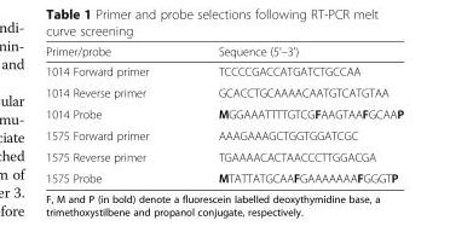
<table><thead><tr><td>Primer/probe</td><td>Sequence (5&#x27;–3&#x27;)</td></tr></thead><tbody><tr><td>1014 Forward primer</td><td>TCCCCGACCATGATCTGCCAA</td></tr><tr><td>1014 Reverse primer</td><td>GCACCTGCAAAACAATGTCATGTAA</td></tr><tr><td>1014 Probe</td><td>MGGAAATTTTGTCGFAAGTAAFGCAAP</td></tr><tr><td>1575 Forward primer</td><td>AAAGAAAGCTGGTGGATCGC</td></tr><tr><td>1575 Reverse primer</td><td>TGAAAACACTAACCCTTGGACGA</td></tr><tr><td>1575 Probe</td><td>MTATTATGCAAFGAAAAAAAFGGGTP</td></tr></tbody></table>